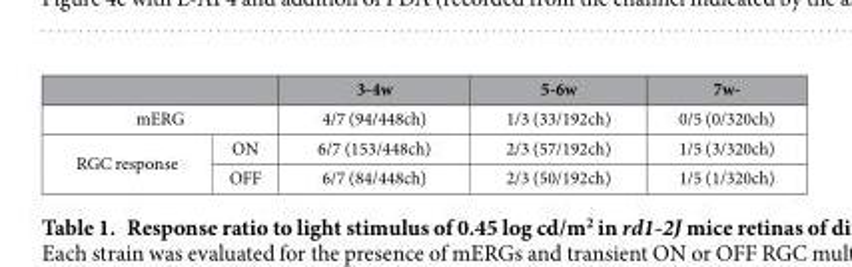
<table><thead><tr><td></td><td></td><td>3-4w</td><td>5-6w</td><td>7w-</td></tr></thead><tbody><tr><td colspan="2">mERG</td><td>4/7 (94/448ch)</td><td>1/3 (33/192ch)</td><td>0/5 (0/320ch)</td></tr><tr><td rowspan="2">RGC response</td><td>ON</td><td>6/7 (153/448ch)</td><td>2/3 (57/192ch)</td><td>1/5 (3/320ch)</td></tr><tr><td>OFF</td><td>6/7 (84/448ch)</td><td>2/3 (50/192ch)</td><td>1/5 (1/320ch)</td></tr></tbody></table>